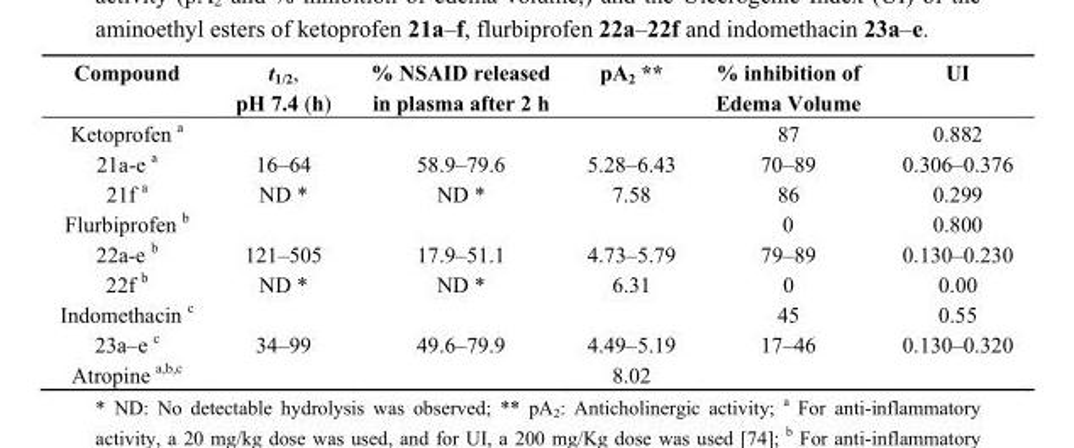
<table><thead><tr><td>Compound</td><td>t<sub>1/2</sub>, pH 7.4 (h)</td><td>% NSAID released in plasma after 2 h</td><td>pA<sub>2</sub> **</td><td>% inhibition of Edema Volume</td><td>UI</td></tr></thead><tbody><tr><td>Ketoprofen a</td><td></td><td></td><td></td><td>87</td><td>0.882</td></tr><tr><td>21a-e a</td><td>16–64</td><td>58.9–79.6</td><td>5.28–6.43</td><td>70–89</td><td>0.306–0.376</td></tr><tr><td>21f a</td><td>ND *</td><td>ND *</td><td>7.58</td><td>86</td><td>0.299</td></tr><tr><td>Flurbiprofen b</td><td></td><td></td><td></td><td>0</td><td>0.800</td></tr><tr><td>22a-e b</td><td>121–505</td><td>17.9–51.1</td><td>4.73–5.79</td><td>79–89</td><td>0.130–0.230</td></tr><tr><td>22f b</td><td>ND *</td><td>ND *</td><td>6.31</td><td>0</td><td>0.00</td></tr><tr><td>Indomethacin c</td><td></td><td></td><td></td><td>45</td><td>0.55</td></tr><tr><td>23a–e c</td><td>34–99</td><td>49.6–79.9</td><td>4.49–5.19</td><td>17–46</td><td>0.130–0.320</td></tr><tr><td>Atropine a,b,c</td><td></td><td></td><td>8.02</td><td></td><td></td></tr></tbody></table>